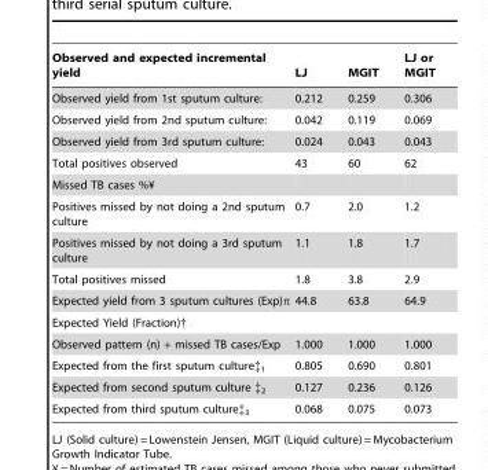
<table><thead><tr><td>Observed and expected incremental yield</td><td>LJ</td><td>MGIT</td><td>LJ or MGIT</td></tr></thead><tbody><tr><td>Observed yield from 1st sputum culture:</td><td>0.212</td><td>0.259</td><td>0.306</td></tr><tr><td>Observed yield from 2nd sputum culture:</td><td>0.042</td><td>0.119</td><td>0.069</td></tr><tr><td>Observed yield from 3rd sputum culture:</td><td>0.024</td><td>0.043</td><td>0.043</td></tr><tr><td>Total positives observed</td><td>43</td><td>60</td><td>62</td></tr><tr><td colspan="4">Missed TB cases %¥</td></tr><tr><td>Positives missed by not doing a 2nd sputum culture</td><td>0.7</td><td>2.0</td><td>1.2</td></tr><tr><td>Positives missed by not doing a 3rd sputum culture</td><td>1.1</td><td>1.8</td><td>1.7</td></tr><tr><td>Total positives missed</td><td>1.8</td><td>3.8</td><td>2.9</td></tr><tr><td>Expected yield from 3 sputum cultures (Exp)π</td><td>44.8</td><td>63.8</td><td>64.9</td></tr><tr><td colspan="4">Expected Yield (Fraction)†</td></tr><tr><td>Observed pattern (n) + missed TB cases/Exp</td><td>1.000</td><td>1.000</td><td>1.000</td></tr><tr><td>Expected from the first sputum culture‡<sub>1</sub></td><td>0.805</td><td>0.690</td><td>0.801</td></tr><tr><td>Expected from second sputum culture ‡<sub>2</sub></td><td>0.127</td><td>0.236</td><td>0.126</td></tr><tr><td>Expected from third sputum culture‡<sub>3</sub></td><td>0.068</td><td>0.075</td><td>0.073</td></tr></tbody></table>